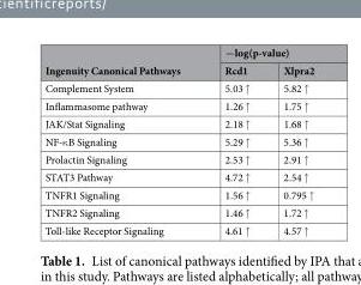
<table><thead><tr><td rowspan="2">Ingenuity Canonical Pathways</td><td colspan="2">−log(p-value)</td></tr><tr><td>Rcd1</td><td>Xlpra2</td></tr></thead><tbody><tr><td>Complement System</td><td>5.03 ↑</td><td>5.82 ↑</td></tr><tr><td>Inflammasome pathway</td><td>1.26 ↑</td><td>1.75 ↑</td></tr><tr><td>JAK/Stat Signaling</td><td>2.18 ↑</td><td>1.68 ↑</td></tr><tr><td>NF-κB Signaling</td><td>5.29 ↑</td><td>5.36 ↑</td></tr><tr><td>Prolactin Signaling</td><td>2.53 ↑</td><td>2.91 ↑</td></tr><tr><td>STAT3 Pathway</td><td>4.72 ↑</td><td>2.54 ↑</td></tr><tr><td>TNFR1 Signaling</td><td>1.56 ↑</td><td>0.795 ↑</td></tr><tr><td>TNFR2 Signaling</td><td>1.46 ↑</td><td>1.72 ↑</td></tr><tr><td>Toll-like Receptor Signaling</td><td>4.61 ↑</td><td>4.57 ↑</td></tr></tbody></table>